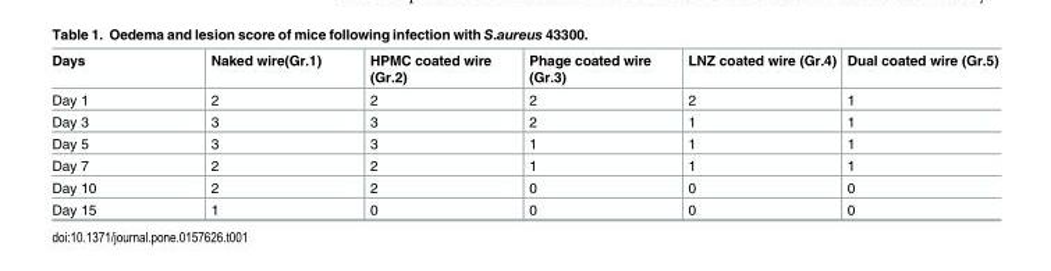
<table><thead><tr><td>Days</td><td>Naked wire(Gr.1)</td><td>HPMC coated wire (Gr.2)</td><td>Phage coated wire (Gr.3)</td><td>LNZ coated wire (Gr.4)</td><td>Dual coated wire (Gr.5)</td></tr></thead><tbody><tr><td>Day 1</td><td>2</td><td>2</td><td>2</td><td>2</td><td>1</td></tr><tr><td>Day 3</td><td>3</td><td>3</td><td>2</td><td>1</td><td>1</td></tr><tr><td>Day 5</td><td>3</td><td>3</td><td>1</td><td>1</td><td>1</td></tr><tr><td>Day 7</td><td>2</td><td>2</td><td>1</td><td>1</td><td>1</td></tr><tr><td>Day 10</td><td>2</td><td>2</td><td>0</td><td>0</td><td>0</td></tr><tr><td>Day 15</td><td>1</td><td>0</td><td>0</td><td>0</td><td>0</td></tr></tbody></table>